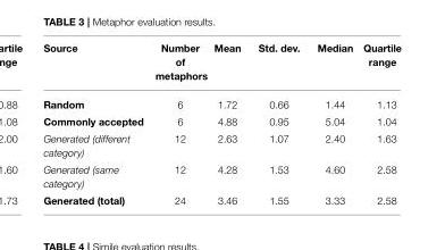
<table><thead><tr><td>Source</td><td>Number of metaphors</td><td>Mean</td><td>Std. dev.</td><td>Median</td><td>Quartile range</td></tr></thead><tbody><tr><td>Random</td><td>6</td><td>1.72</td><td>0.66</td><td>1.44</td><td>1.13</td></tr><tr><td>Commonly accepted</td><td>6</td><td>4.88</td><td>0.95</td><td>5.04</td><td>1.04</td></tr><tr><td>Generated (different category)</td><td>12</td><td>2.63</td><td>1.07</td><td>2.40</td><td>1.63</td></tr><tr><td>Generated (same category)</td><td>12</td><td>4.28</td><td>1.53</td><td>4.60</td><td>2.58</td></tr><tr><td>Generated (total)</td><td>24</td><td>3.46</td><td>1.55</td><td>3.33</td><td>2.58</td></tr></tbody></table>